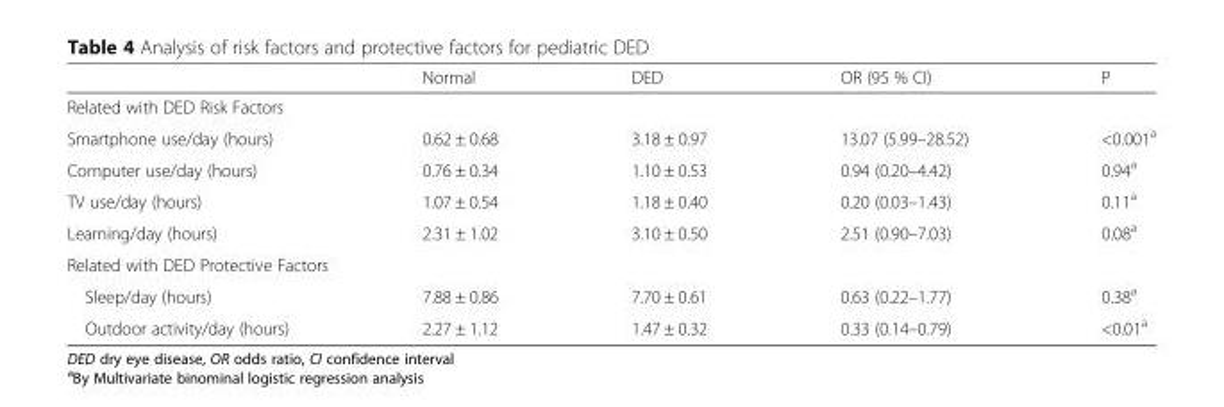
<table><thead><tr><td></td><td>Normal</td><td>DED</td><td>OR (95 % CI)</td><td>P</td></tr></thead><tbody><tr><td colspan="5">Related with DED Risk Factors</td></tr><tr><td>Smartphone use/day (hours)</td><td>0.62 ± 0.68</td><td>3.18 ± 0.97</td><td>13.07 (5.99–28.52)</td><td>&lt;0.001<sup>a</sup></td></tr><tr><td>Computer use/day (hours)</td><td>0.76 ± 0.34</td><td>1.10 ± 0.53</td><td>0.94 (0.20–4.42)</td><td>0.94<sup>a</sup></td></tr><tr><td>TV use/day (hours)</td><td>1.07 ± 0.54</td><td>1.18 ± 0.40</td><td>0.20 (0.03–1.43)</td><td>0.11<sup>a</sup></td></tr><tr><td>Learning/day (hours)</td><td>2.31 ± 1.02</td><td>3.10 ± 0.50</td><td>2.51 (0.90–7.03)</td><td>0.08<sup>a</sup></td></tr><tr><td colspan="5">Related with DED Protective Factors</td></tr><tr><td>Sleep/day (hours)</td><td>7.88 ± 0.86</td><td>7.70 ± 0.61</td><td>0.63 (0.22–1.77)</td><td>0.38<sup>a</sup></td></tr><tr><td>Outdoor activity/day (hours)</td><td>2.27 ± 1.12</td><td>1.47 ± 0.32</td><td>0.33 (0.14–0.79)</td><td>&lt;0.01<sup>a</sup></td></tr></tbody></table>